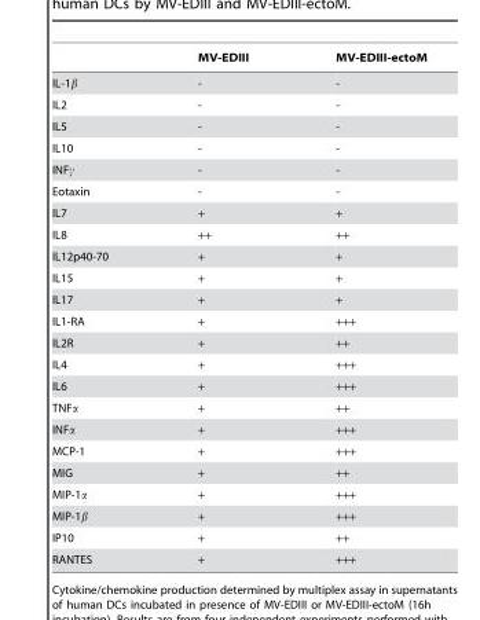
<table><thead><tr><td></td><td>MV-EDIII</td><td>MV-EDIII-ectoM</td></tr></thead><tbody><tr><td>IL-1β</td><td>-</td><td>-</td></tr><tr><td>IL2</td><td>-</td><td>-</td></tr><tr><td>IL5</td><td>-</td><td>-</td></tr><tr><td>IL10</td><td>-</td><td>-</td></tr><tr><td>INFγ</td><td>-</td><td>-</td></tr><tr><td>Eotaxin</td><td>-</td><td>-</td></tr><tr><td>IL7</td><td>+</td><td>+</td></tr><tr><td>IL8</td><td>++</td><td>++</td></tr><tr><td>IL12p40-70</td><td>+</td><td>+</td></tr><tr><td>IL15</td><td>+</td><td>+</td></tr><tr><td>IL17</td><td>+</td><td>+</td></tr><tr><td>IL1-RA</td><td>+</td><td>+++</td></tr><tr><td>IL2R</td><td>+</td><td>++</td></tr><tr><td>IL4</td><td>+</td><td>+++</td></tr><tr><td>IL6</td><td>+</td><td>+++</td></tr><tr><td>TNFα</td><td>+</td><td>++</td></tr><tr><td>INFα</td><td>+</td><td>+++</td></tr><tr><td>MCP-1</td><td>+</td><td>+++</td></tr><tr><td>MIG</td><td>+</td><td>++</td></tr><tr><td>MIP-1α</td><td>+</td><td>+++</td></tr><tr><td>MIP-1β</td><td>+</td><td>+++</td></tr><tr><td>IP10</td><td>+</td><td>++</td></tr><tr><td>RANTES</td><td>+</td><td>+++</td></tr></tbody></table>